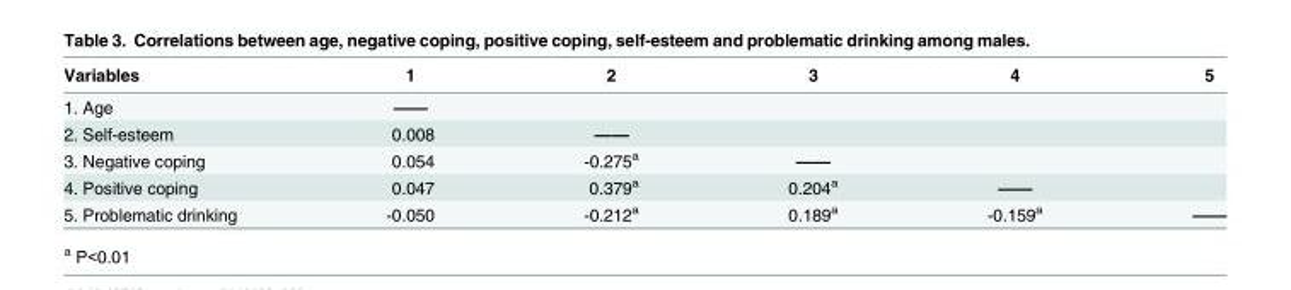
<table><thead><tr><td>Variables</td><td>1</td><td>2</td><td>3</td><td>4</td><td>5</td></tr></thead><tbody><tr><td>1. Age</td><td>——</td><td></td><td></td><td></td><td></td></tr><tr><td>2. Self-esteem</td><td>0.008</td><td>——</td><td></td><td></td><td></td></tr><tr><td>3. Negative coping</td><td>0.054</td><td>-0.275<sup>a</sup></td><td>——</td><td></td><td></td></tr><tr><td>4. Positive coping</td><td>0.047</td><td>0.379<sup>a</sup></td><td>0.204<sup>a</sup></td><td>——</td><td></td></tr><tr><td>5. Problematic drinking</td><td>-0.050</td><td>-0.212<sup>a</sup></td><td>0.189<sup>a</sup></td><td>-0.159<sup>a</sup></td><td>——</td></tr></tbody></table>